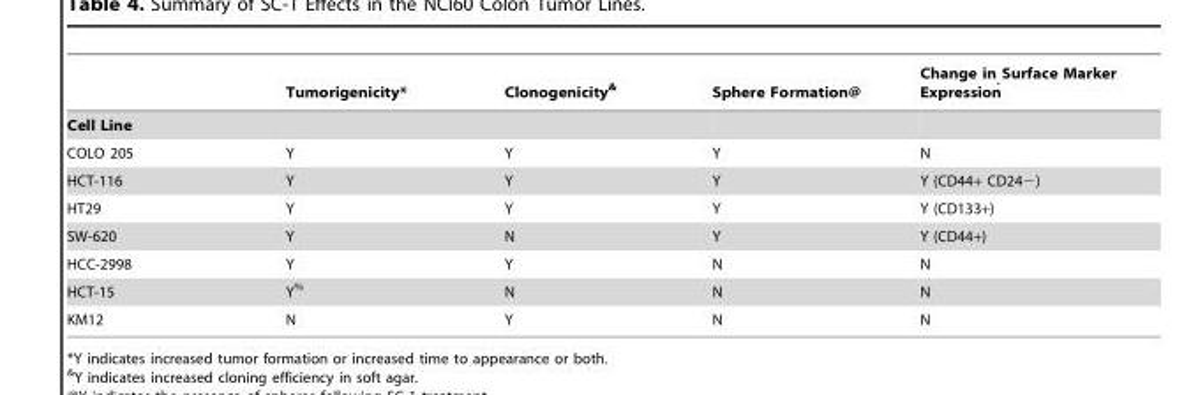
<table><thead><tr><td></td><td>Tumorigenicity*</td><td>Clonogenicity&amp;</td><td>Sphere Formation@</td><td>Change in Surface Marker Expressionˆ</td></tr></thead><tbody><tr><td colspan="5">Cell Line</td></tr><tr><td>COLO 205</td><td>Y</td><td>Y</td><td>Y</td><td>N</td></tr><tr><td>HCT-116</td><td>Y</td><td>Y</td><td>Y</td><td>Y (CD44+ CD24−)</td></tr><tr><td>HT29</td><td>Y</td><td>Y</td><td>Y</td><td>Y (CD133+)</td></tr><tr><td>SW-620</td><td>Y</td><td>N</td><td>Y</td><td>Y (CD44+)</td></tr><tr><td>HCC-2998</td><td>Y</td><td>Y</td><td>N</td><td>N</td></tr><tr><td>HCT-15</td><td>Y%</td><td>N</td><td>N</td><td>N</td></tr><tr><td>KM12</td><td>N</td><td>Y</td><td>N</td><td>N</td></tr></tbody></table>